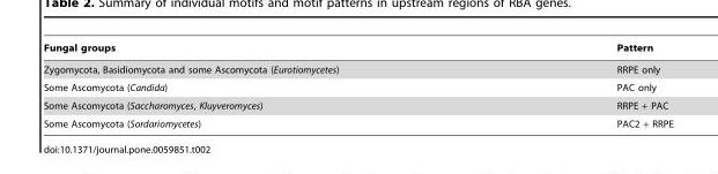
<table><thead><tr><td>Fungal groups</td><td>Pattern</td></tr></thead><tbody><tr><td>Zygomycota, Basidiomycota and some Ascomycota (Eurotiomycetes)</td><td>RRPE only</td></tr><tr><td>Some Ascomycota (Candida)</td><td>PAC only</td></tr><tr><td>Some Ascomycota (Saccharomyces, Kluyveromyces)</td><td>RRPE + PAC</td></tr><tr><td>Some Ascomycota (Sordariomycetes)</td><td>PAC2 + RRPE</td></tr></tbody></table>